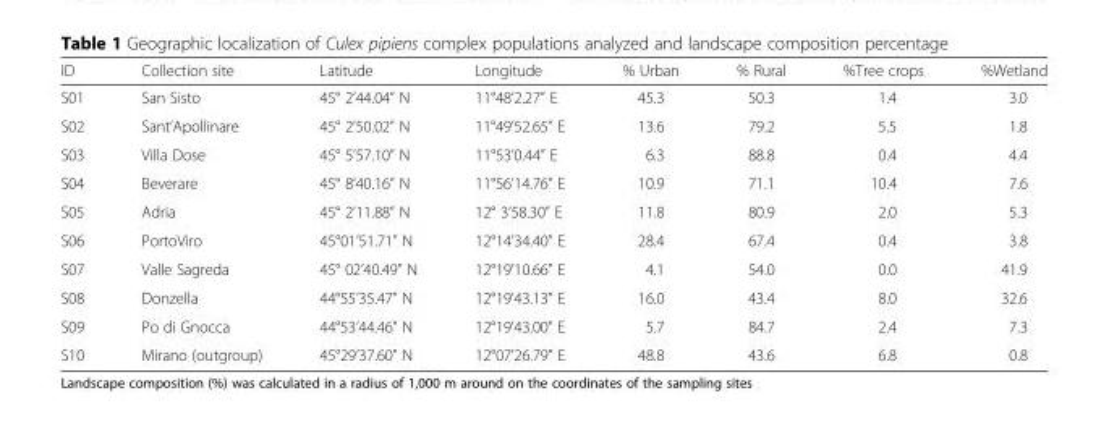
<table><thead><tr><td>ID</td><td>Collection site</td><td>Latitude</td><td>Longitude</td><td>% Urban</td><td>% Rural</td><td>%Tree crops</td><td>%Wetland</td></tr></thead><tbody><tr><td>S01</td><td>San Sisto</td><td>45° 2’44.04” N</td><td>11°48’2.27” E</td><td>45.3</td><td>50.3</td><td>1.4</td><td>3.0</td></tr><tr><td>S02</td><td>Sant’Apollinare</td><td>45° 2’50.02” N</td><td>11°49’52.65” E</td><td>13.6</td><td>79.2</td><td>5.5</td><td>1.8</td></tr><tr><td>S03</td><td>Villa Dose</td><td>45° 5’57.10” N</td><td>11°53’0.44” E</td><td>6.3</td><td>88.8</td><td>0.4</td><td>4.4</td></tr><tr><td>S04</td><td>Beverare</td><td>45° 8’40.16” N</td><td>11°56’14.76” E</td><td>10.9</td><td>71.1</td><td>10.4</td><td>7.6</td></tr><tr><td>S05</td><td>Adria</td><td>45° 2’11.88” N</td><td>12° 3’58.30” E</td><td>11.8</td><td>80.9</td><td>2.0</td><td>5.3</td></tr><tr><td>S06</td><td>PortoViro</td><td>45°01’51.71” N</td><td>12°14’34.40” E</td><td>28.4</td><td>67.4</td><td>0.4</td><td>3.8</td></tr><tr><td>S07</td><td>Valle Sagreda</td><td>45° 02’40.49” N</td><td>12°19’10.66” E</td><td>4.1</td><td>54.0</td><td>0.0</td><td>41.9</td></tr><tr><td>S08</td><td>Donzella</td><td>44°55’35.47” N</td><td>12°19’43.13” E</td><td>16.0</td><td>43.4</td><td>8.0</td><td>32.6</td></tr><tr><td>S09</td><td>Po di Gnocca</td><td>44°53’44.46” N</td><td>12°19’43.00” E</td><td>5.7</td><td>84.7</td><td>2.4</td><td>7.3</td></tr><tr><td>S10</td><td>Mirano (outgroup)</td><td>45°29’37.60” N</td><td>12°07’26.79” E</td><td>48.8</td><td>43.6</td><td>6.8</td><td>0.8</td></tr></tbody></table>